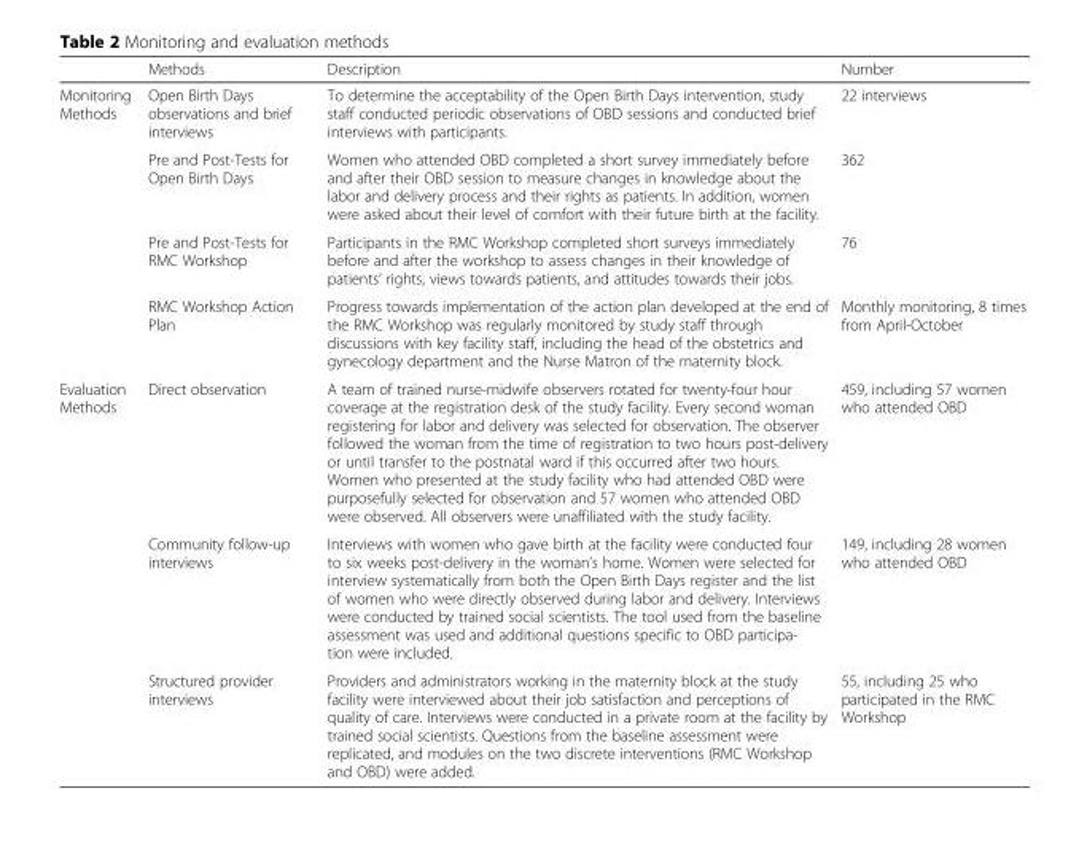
<table><thead><tr><td></td><td>Methods</td><td>Description</td><td>Number</td></tr></thead><tbody><tr><td rowspan="4">Monitoring Methods</td><td>Open Birth Days observations and brief interviews</td><td>To determine the acceptability of the Open Birth Days intervention, study staff conducted periodic observations of OBD sessions and conducted brief interviews with participants.</td><td>22 interviews</td></tr><tr><td>Pre and Post-Tests for Open Birth Days</td><td>Women who attended OBD completed a short survey immediately before and after their OBD session to measure changes in knowledge about the labor and delivery process and their rights as patients. In addition, women were asked about their level of comfort with their future birth at the facility.</td><td>362</td></tr><tr><td>Pre and Post-Tests for RMC Workshop</td><td>Participants in the RMC Workshop completed short surveys immediately before and after the workshop to assess changes in their knowledge of patients’ rights, views towards patients, and attitudes towards their jobs.</td><td>76</td></tr><tr><td>RMC Workshop Action Plan</td><td>Progress towards implementation of the action plan developed at the end of the RMC Workshop was regularly monitored by study staff through discussions with key facility staff, including the head of the obstetrics and gynecology department and the Nurse Matron of the maternity block.</td><td>Monthly monitoring, 8 times from April-October</td></tr><tr><td rowspan="3">Evaluation Methods</td><td>Direct observation</td><td>A team of trained nurse-midwife observers rotated for twenty-four hour coverage at the registration desk of the study facility. Every second woman registering for labor and delivery was selected for observation. The observer followed the woman from the time of registration to two hours post-delivery or until transfer to the postnatal ward if this occurred after two hours. Women who presented at the study facility who had attended OBD were purposefully selected for observation and 57 women who attended OBD were observed. All observers were unaffiliated with the study facility.</td><td>459, including 57 women who attended OBD</td></tr><tr><td>Community follow-up interviews</td><td>Interviews with women who gave birth at the facility were conducted four to six weeks post-delivery in the woman’s home. Women were selected for interview systematically from both the Open Birth Days register and the list of women who were directly observed during labor and delivery. Interviews were conducted by trained social scientists. The tool used from the baseline assessment was used and additional questions specific to OBD participa- tion were included.</td><td>149, including 28 women who attended OBD</td></tr><tr><td>Structured provider interviews</td><td>Providers and administrators working in the maternity block at the study facility were interviewed about their job satisfaction and perceptions of quality of care. Interviews were conducted in a private room at the facility by trained social scientists. Questions from the baseline assessment were replicated, and modules on the two discrete interventions (RMC Workshop and OBD) were added.</td><td>55, including 25 who participated in the RMC Workshop</td></tr></tbody></table>